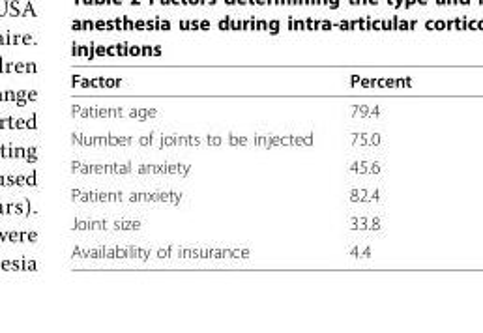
<table><thead><tr><td>Factor</td><td>Percent</td></tr></thead><tbody><tr><td>Patient age</td><td>79.4</td></tr><tr><td>Number of joints to be injected</td><td>75.0</td></tr><tr><td>Parental anxiety</td><td>45.6</td></tr><tr><td>Patient anxiety</td><td>82.4</td></tr><tr><td>Joint size</td><td>33.8</td></tr><tr><td>Availability of insurance</td><td>4.4</td></tr></tbody></table>